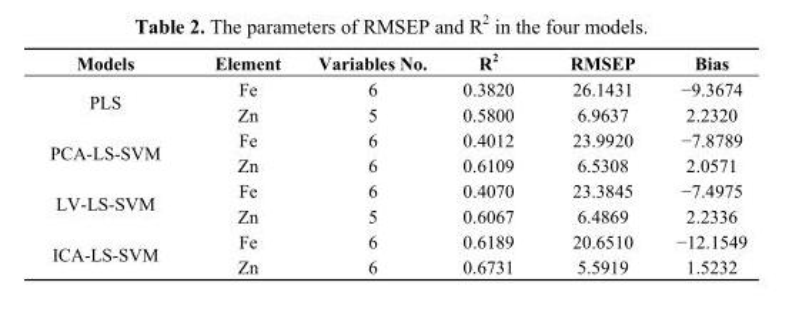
<table><thead><tr><td>Models</td><td>Element</td><td>Variables No.</td><td>R<sup>2</sup></td><td>RMSEP</td><td>Bias</td></tr></thead><tbody><tr><td rowspan="2">PLS</td><td>Fe</td><td>6</td><td>0.3820</td><td>26.1431</td><td>−9.3674</td></tr><tr><td>Zn</td><td>5</td><td>0.5800</td><td>6.9637</td><td>2.2320</td></tr><tr><td rowspan="2">PCA-LS-SVM</td><td>Fe</td><td>6</td><td>0.4012</td><td>23.9920</td><td>−7.8789</td></tr><tr><td>Zn</td><td>6</td><td>0.6109</td><td>6.5308</td><td>2.0571</td></tr><tr><td rowspan="2">LV-LS-SVM</td><td>Fe</td><td>6</td><td>0.4070</td><td>23.3845</td><td>−7.4975</td></tr><tr><td>Zn</td><td>5</td><td>0.6067</td><td>6.4869</td><td>2.2336</td></tr><tr><td rowspan="2">ICA-LS-SVM</td><td>Fe</td><td>6</td><td>0.6189</td><td>20.6510</td><td>−12.1549</td></tr><tr><td>Zn</td><td>6</td><td>0.6731</td><td>5.5919</td><td>1.5232</td></tr></tbody></table>